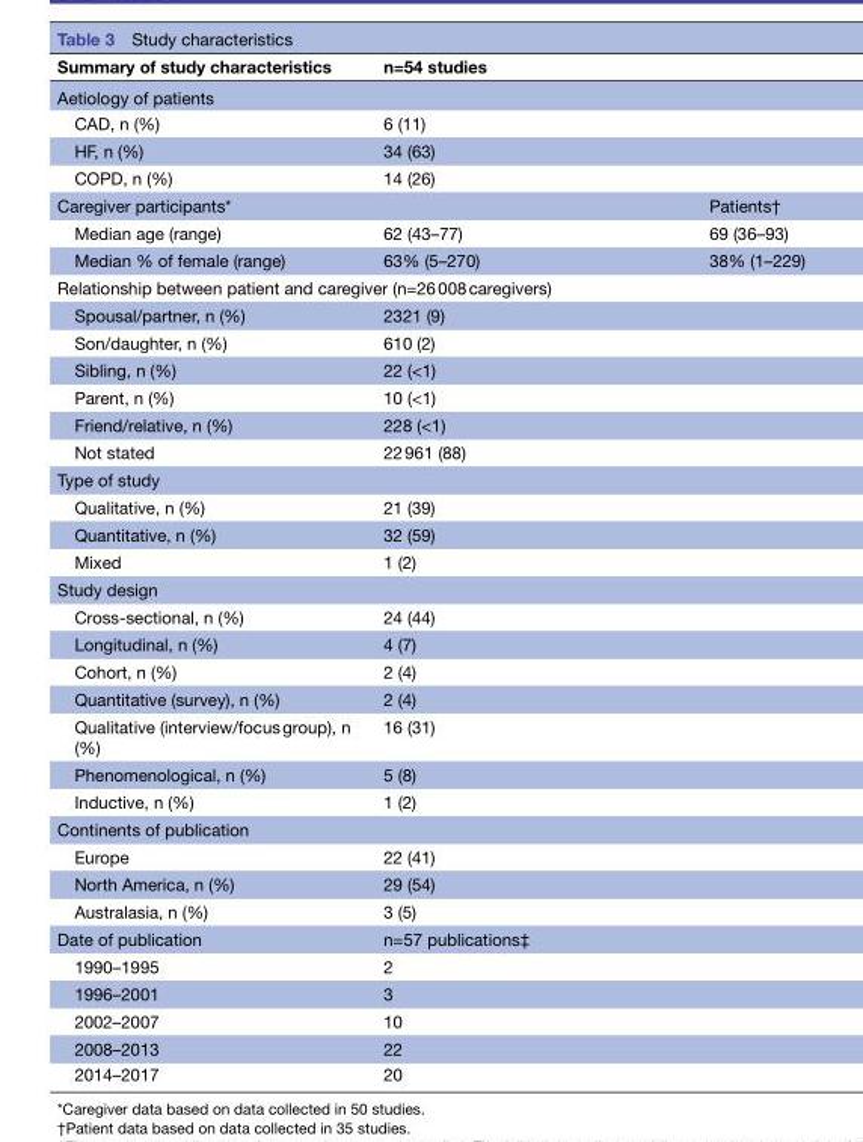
<table><thead><tr><td>Summary of study characteristics</td><td>n=54 studies</td><td></td></tr></thead><tbody><tr><td colspan="3">Aetiology of patients</td></tr><tr><td>CAD, n (%)</td><td>6 (11)</td><td></td></tr><tr><td>HF, n (%)</td><td>34 (63)</td><td></td></tr><tr><td>COPD, n (%)</td><td>14 (26)</td><td></td></tr><tr><td>Caregiver participants*</td><td></td><td>Patients†</td></tr><tr><td>Median age (range)</td><td>62 (43–77)</td><td>69 (36–93)</td></tr><tr><td>Median % of female (range)</td><td>63% (5–270)</td><td>38% (1–229)</td></tr><tr><td colspan="3">Relationship between patient and caregiver (n=26 008 caregivers)</td></tr><tr><td>Spousal/partner, n (%)</td><td>2321 (9)</td><td></td></tr><tr><td>Son/daughter, n (%)</td><td>610 (2)</td><td></td></tr><tr><td>Sibling, n (%)</td><td>22 (&lt;1)</td><td></td></tr><tr><td>Parent, n (%)</td><td>10 (&lt;1)</td><td></td></tr><tr><td>Friend/relative, n (%)</td><td>228 (&lt;1)</td><td></td></tr><tr><td>Not stated</td><td>22 961 (88)</td><td></td></tr><tr><td colspan="3">Type of study</td></tr><tr><td>Qualitative, n (%)</td><td>21 (39)</td><td></td></tr><tr><td>Quantitative, n (%)</td><td>32 (59)</td><td></td></tr><tr><td>Mixed</td><td>1 (2)</td><td></td></tr><tr><td colspan="3">Study design</td></tr><tr><td>Cross-sectional, n (%)</td><td>24 (44)</td><td></td></tr><tr><td>Longitudinal, n (%)</td><td>4 (7)</td><td></td></tr><tr><td>Cohort, n (%)</td><td>2 (4)</td><td></td></tr><tr><td>Quantitative (survey), n (%)</td><td>2 (4)</td><td></td></tr><tr><td>Qualitative (interview/focus group), n (%)</td><td>16 (31)</td><td></td></tr><tr><td>Phenomenological, n (%)</td><td>5 (8)</td><td></td></tr><tr><td>Inductive, n (%)</td><td>1 (2)</td><td></td></tr><tr><td colspan="3">Continents of publication</td></tr><tr><td>Europe</td><td>22 (41)</td><td></td></tr><tr><td>North America, n (%)</td><td>29 (54)</td><td></td></tr><tr><td>Australasia, n (%)</td><td>3 (5)</td><td></td></tr><tr><td>Date of publication</td><td>n=57 publications‡</td><td></td></tr><tr><td>1990–1995</td><td>2</td><td></td></tr><tr><td>1996–2001</td><td>3</td><td></td></tr><tr><td>2002–2007</td><td>10</td><td></td></tr><tr><td>2008–2013</td><td>22</td><td></td></tr><tr><td>2014–2017</td><td>20</td><td></td></tr></tbody></table>